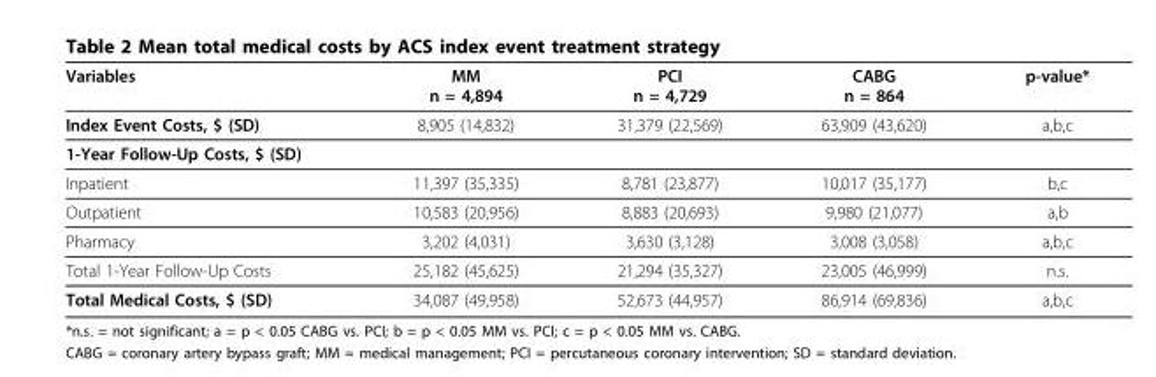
<table><thead><tr><td>Variables</td><td>MM n = 4,894</td><td>PCI n = 4,729</td><td>CABG n = 864</td><td>p-value*</td></tr></thead><tbody><tr><td>Index Event Costs, $ (SD)</td><td>8,905 (14,832)</td><td>31,379 (22,569)</td><td>63,909 (43,620)</td><td>a,b,c</td></tr><tr><td colspan="5">1-Year Follow-Up Costs, $ (SD)</td></tr><tr><td>Inpatient</td><td>11,397 (35,335)</td><td>8,781 (23,877)</td><td>10,017 (35,177)</td><td>b,c</td></tr><tr><td>Outpatient</td><td>10,583 (20,956)</td><td>8,883 (20,693)</td><td>9,980 (21,077)</td><td>a,b</td></tr><tr><td>Pharmacy</td><td>3,202 (4,031)</td><td>3,630 (3,128)</td><td>3,008 (3,058)</td><td>a,b,c</td></tr><tr><td>Total 1-Year Follow-Up Costs</td><td>25,182 (45,625)</td><td>21,294 (35,327)</td><td>23,005 (46,999)</td><td>n.s.</td></tr><tr><td>Total Medical Costs, $ (SD)</td><td>34,087 (49,958)</td><td>52,673 (44,957)</td><td>86,914 (69,836)</td><td>a,b,c</td></tr></tbody></table>